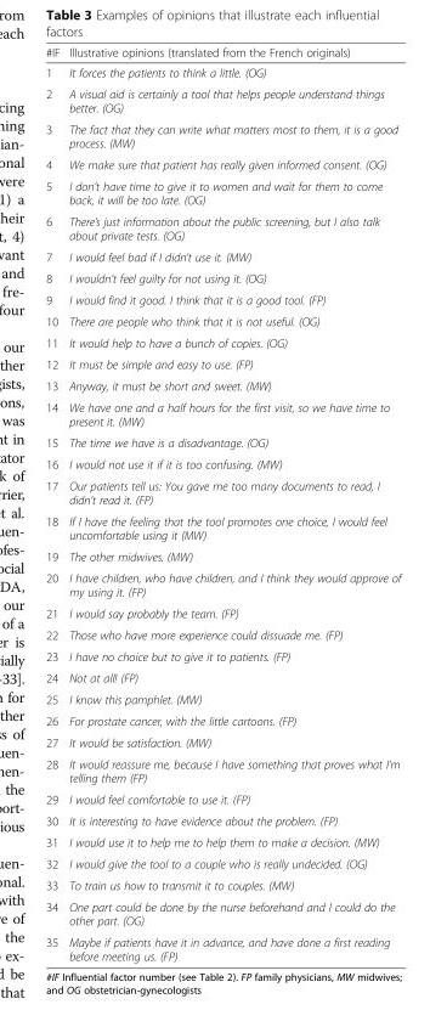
<table><thead><tr><td>#IF</td><td>Illustrative opinions (translated from the French originals)</td></tr></thead><tbody><tr><td>1</td><td>It forces the patients to think a little. (OG)</td></tr><tr><td>2</td><td>A visual aid is certainly a tool that helps people understand things better. (OG)</td></tr><tr><td>3</td><td>The fact that they can write what matters most to them, it is a good process. (MW)</td></tr><tr><td>4</td><td>We make sure that patient has really given informed consent. (OG)</td></tr><tr><td>5</td><td>I don’t have time to give it to women and wait for them to come back, it will be too late. (OG)</td></tr><tr><td>6</td><td>There’s just information about the public screening, but I also talk about private tests. (OG)</td></tr><tr><td>7</td><td>I would feel bad if I didn’t use it. (MW)</td></tr><tr><td>8</td><td>I wouldn’t feel guilty for not using it. (OG)</td></tr><tr><td>9</td><td>I would find it good. I think that it is a good tool. (FP)</td></tr><tr><td>10</td><td>There are people who think that it is not useful. (OG)</td></tr><tr><td>11</td><td>It would help to have a bunch of copies. (OG)</td></tr><tr><td>12</td><td>It must be simple and easy to use. (FP)</td></tr><tr><td>13</td><td>Anyway, it must be short and sweet. (MW)</td></tr><tr><td>14</td><td>We have one and a half hours for the first visit, so we have time to present it. (MW)</td></tr><tr><td>15</td><td>The time we have is a disadvantage. (OG)</td></tr><tr><td>16</td><td>I would not use it if it is too confusing. (MW)</td></tr><tr><td>17</td><td>Our patients tell us: You gave me too many documents to read, I didn’t read it. (FP)</td></tr><tr><td>18</td><td>If I have the feeling that the tool promotes one choice, I would feel uncomfortable using it (MW)</td></tr><tr><td>19</td><td>The other midwives. (MW)</td></tr><tr><td>20</td><td>I have children, who have children, and I think they would approve of my using it. (FP)</td></tr><tr><td>21</td><td>I would say probably the team. (FP)</td></tr><tr><td>22</td><td>Those who have more experience could dissuade me. (FP)</td></tr><tr><td>23</td><td>I have no choice but to give it to patients. (FP)</td></tr><tr><td>24</td><td>Not at all! (FP)</td></tr><tr><td>25</td><td>I know this pamphlet. (MW)</td></tr><tr><td>26</td><td>For prostate cancer, with the little cartoons. (FP)</td></tr><tr><td>27</td><td>It would be satisfaction. (MW)</td></tr><tr><td>28</td><td>It would reassure me, because I have something that proves what I’m telling them (FP)</td></tr><tr><td>29</td><td>I would feel comfortable to use it. (FP)</td></tr><tr><td>30</td><td>It is interesting to have evidence about the problem. (FP)</td></tr><tr><td>31</td><td>I would use it to help me to help them to make a decision. (MW)</td></tr><tr><td>32</td><td>I would give the tool to a couple who is really undecided. (OG)</td></tr><tr><td>33</td><td>To train us how to transmit it to couples. (MW)</td></tr><tr><td>34</td><td>One part could be done by the nurse beforehand and I could do the other part. (OG)</td></tr><tr><td>35</td><td>Maybe if patients have it in advance, and have done a first reading before meeting us. (FP)</td></tr></tbody></table>